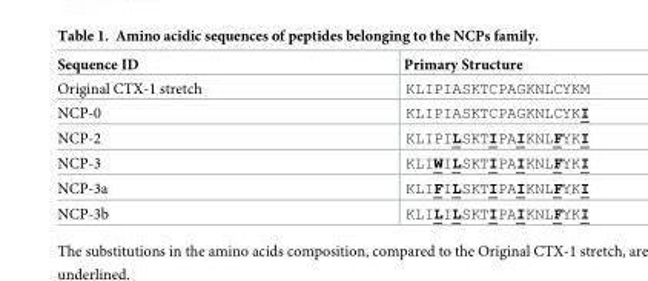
<table><thead><tr><td>Sequence ID</td><td>Primary Structure</td></tr></thead><tbody><tr><td>Original CTX-1 stretch</td><td>KLIPIASKTCPAGKNLCYKM</td></tr><tr><td>NCP-0</td><td>KLIPIASKTCPAGKNLCYKI</td></tr><tr><td>NCP-2</td><td>KLIPILSKTIPAIKNLFYKI</td></tr><tr><td>NCP-3</td><td>KLIWILSKTIPAIKNLFYKI</td></tr><tr><td>NCP-3a</td><td>KLIFILSKTIPAIKNLFYKI</td></tr><tr><td>NCP-3b</td><td>KLILILSKTIPAIKNLFYKI</td></tr></tbody></table>